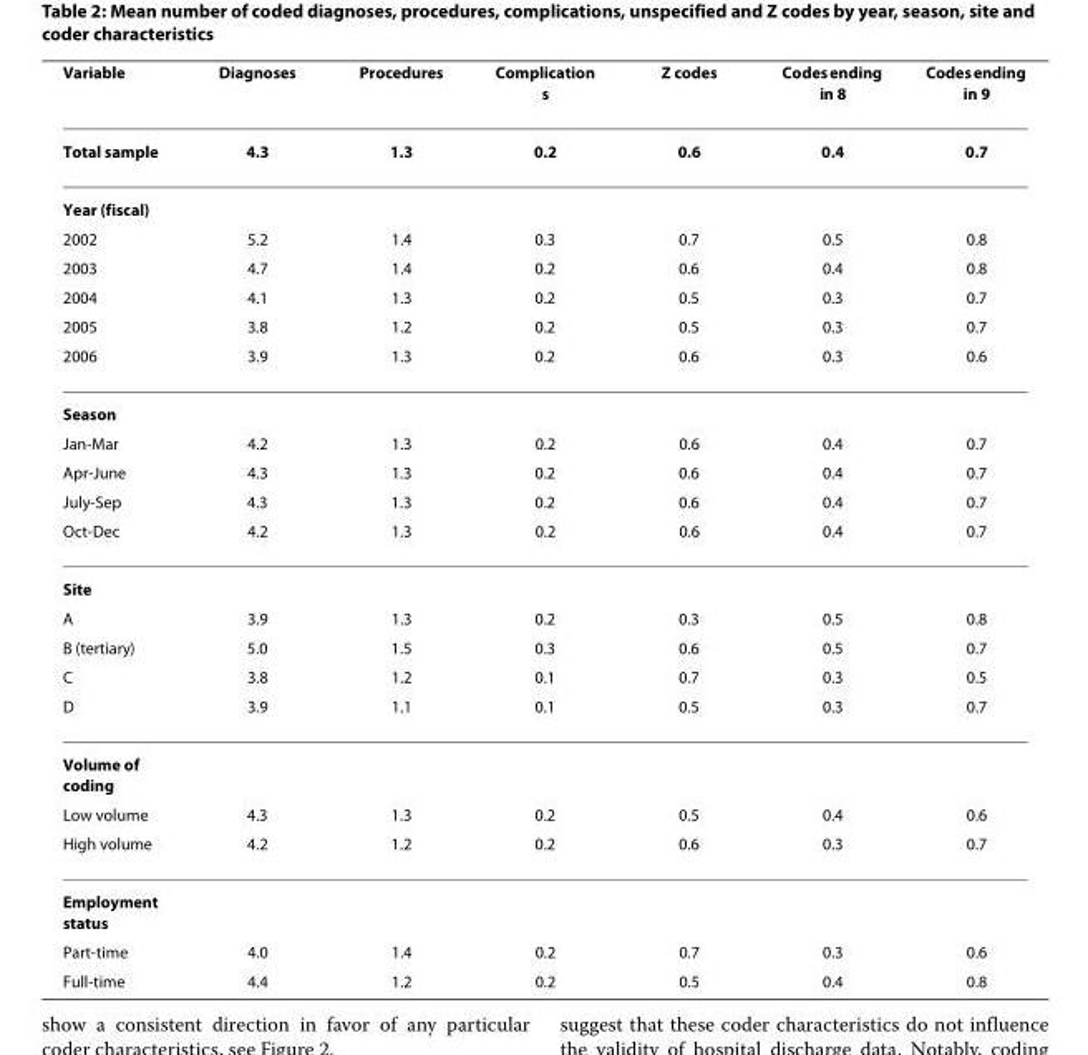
<table><thead><tr><td>Variable</td><td>Diagnoses</td><td>Procedures</td><td>Complication s</td><td>Z codes</td><td>Codes ending in 8</td><td>Codes ending in 9</td></tr></thead><tbody><tr><td>Total sample</td><td>4.3</td><td>1.3</td><td>0.2</td><td>0.6</td><td>0.4</td><td>0.7</td></tr><tr><td colspan="7">Year (fiscal)</td></tr><tr><td>2002</td><td>5.2</td><td>1.4</td><td>0.3</td><td>0.7</td><td>0.5</td><td>0.8</td></tr><tr><td>2003</td><td>4.7</td><td>1.4</td><td>0.2</td><td>0.6</td><td>0.4</td><td>0.8</td></tr><tr><td>2004</td><td>4.1</td><td>1.3</td><td>0.2</td><td>0.5</td><td>0.3</td><td>0.7</td></tr><tr><td>2005</td><td>3.8</td><td>1.2</td><td>0.2</td><td>0.5</td><td>0.3</td><td>0.7</td></tr><tr><td>2006</td><td>3.9</td><td>1.3</td><td>0.2</td><td>0.6</td><td>0.3</td><td>0.6</td></tr><tr><td colspan="7">Season</td></tr><tr><td>Jan-Mar</td><td>4.2</td><td>1.3</td><td>0.2</td><td>0.6</td><td>0.4</td><td>0.7</td></tr><tr><td>Apr-June</td><td>4.3</td><td>1.3</td><td>0.2</td><td>0.6</td><td>0.4</td><td>0.7</td></tr><tr><td>July-Sep</td><td>4.3</td><td>1.3</td><td>0.2</td><td>0.6</td><td>0.4</td><td>0.7</td></tr><tr><td>Oct-Dec</td><td>4.2</td><td>1.3</td><td>0.2</td><td>0.6</td><td>0.4</td><td>0.7</td></tr><tr><td colspan="7">Site</td></tr><tr><td>A</td><td>3.9</td><td>1.3</td><td>0.2</td><td>0.3</td><td>0.5</td><td>0.8</td></tr><tr><td>B (tertiary)</td><td>5.0</td><td>1.5</td><td>0.3</td><td>0.6</td><td>0.5</td><td>0.7</td></tr><tr><td>C</td><td>3.8</td><td>1.2</td><td>0.1</td><td>0.7</td><td>0.3</td><td>0.5</td></tr><tr><td>D</td><td>3.9</td><td>1.1</td><td>0.1</td><td>0.5</td><td>0.3</td><td>0.7</td></tr><tr><td colspan="7">Volume of coding</td></tr><tr><td>Low volume</td><td>4.3</td><td>1.3</td><td>0.2</td><td>0.5</td><td>0.4</td><td>0.6</td></tr><tr><td>High volume</td><td>4.2</td><td>1.2</td><td>0.2</td><td>0.6</td><td>0.3</td><td>0.7</td></tr><tr><td colspan="7">Employment status</td></tr><tr><td>Part-time</td><td>4.0</td><td>1.4</td><td>0.2</td><td>0.7</td><td>0.3</td><td>0.6</td></tr><tr><td>Full-time</td><td>4.4</td><td>1.2</td><td>0.2</td><td>0.5</td><td>0.4</td><td>0.8</td></tr></tbody></table>